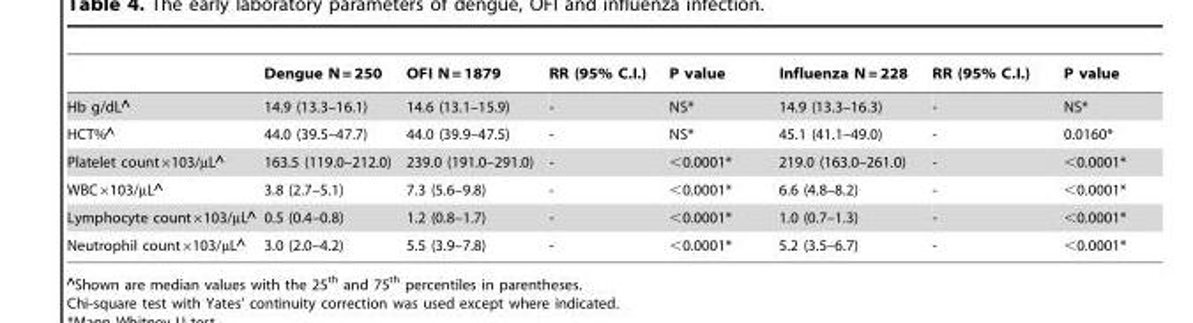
<table><thead><tr><td></td><td>Dengue N = 250</td><td>OFI N = 1879</td><td>RR (95% C.I.)</td><td>P value</td><td>Influenza N = 228</td><td>RR (95% C.I.)</td><td>P value</td></tr></thead><tbody><tr><td>Hb g/dL‘</td><td>14.9 (13.3–16.1)</td><td>14.6 (13.1–15.9)</td><td>-</td><td>NS*</td><td>14.9 (13.3–16.3)</td><td>-</td><td>NS*</td></tr><tr><td>HCT%‘</td><td>44.0 (39.5–47.7)</td><td>44.0 (39.9–47.5)</td><td>-</td><td>NS*</td><td>45.1 (41.1–49.0)</td><td>-</td><td>0.0160*</td></tr><tr><td>Platelet count6103/mL‘</td><td>163.5 (119.0–212.0)</td><td>239.0 (191.0–291.0)</td><td>-</td><td>&lt;0.0001*</td><td>219.0 (163.0–261.0)</td><td>-</td><td>&lt;0.0001*</td></tr><tr><td>WBC6103/mL‘</td><td>3.8 (2.7–5.1)</td><td>7.3 (5.6–9.8)</td><td>-</td><td>&lt;0.0001*</td><td>6.6 (4.8–8.2)</td><td>-</td><td>&lt;0.0001*</td></tr><tr><td>Lymphocyte count6103/mL‘</td><td>0.5 (0.4–0.8)</td><td>1.2 (0.8–1.7)</td><td>-</td><td>&lt;0.0001*</td><td>1.0 (0.7–1.3)</td><td>-</td><td>&lt;0.0001*</td></tr><tr><td>Neutrophil count6103/mL‘</td><td>3.0 (2.0–4.2)</td><td>5.5 (3.9–7.8)</td><td>-</td><td>&lt;0.0001*</td><td>5.2 (3.5–6.7)</td><td>-</td><td>&lt;0.0001*</td></tr></tbody></table>